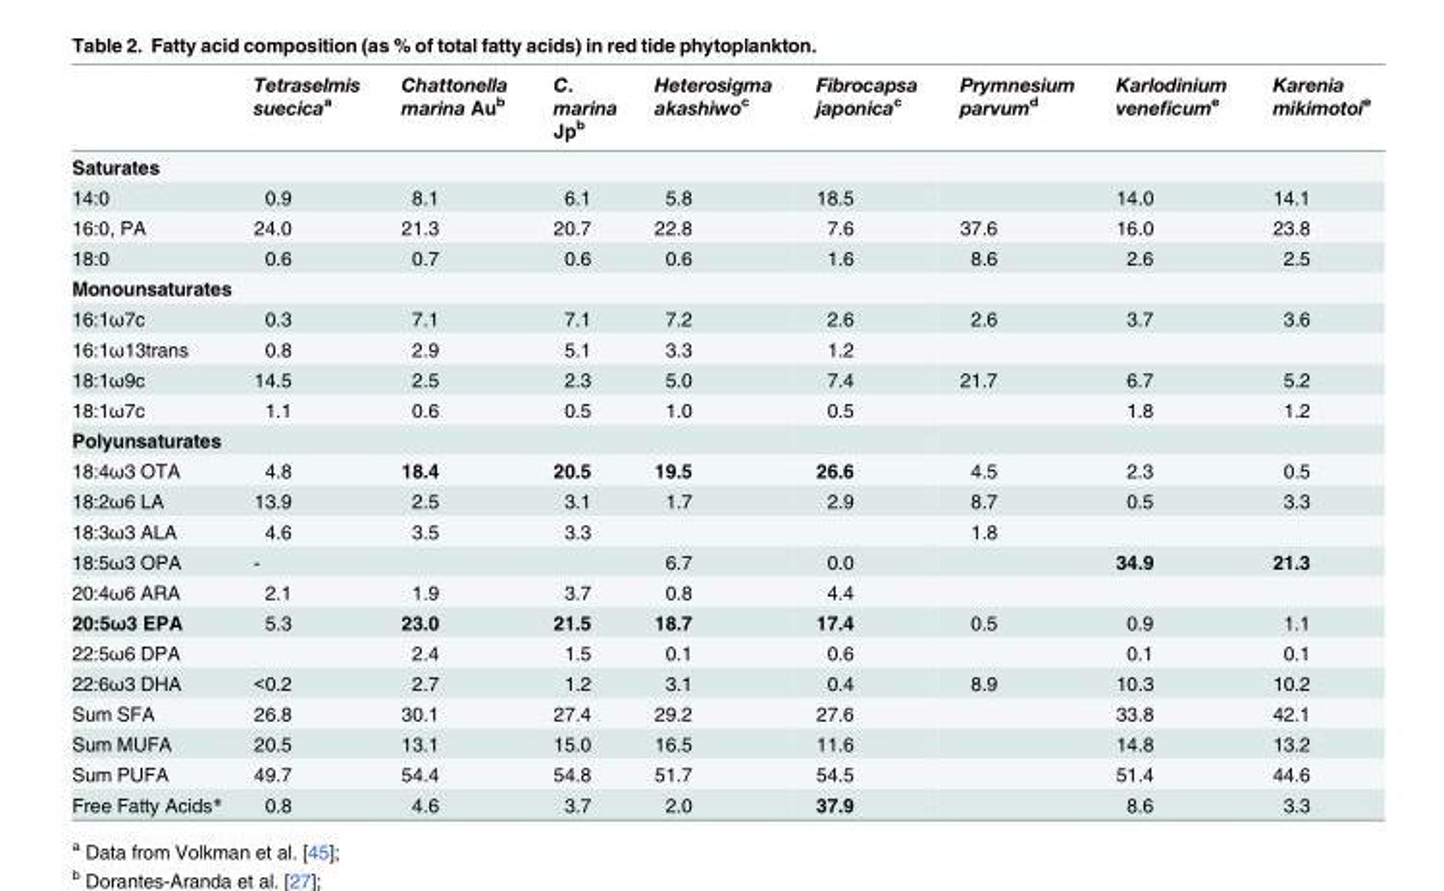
<table><thead><tr><td></td><td>Tetraselmis suecica<sup>a</sup></td><td>Chattonella marina Au<sup>b</sup></td><td>C. marina Jp<sup>b</sup></td><td>Heterosigma akashiwo<sup>c</sup></td><td>Fibrocapsa japonica<sup>c</sup></td><td>Prymnesium parvum<sup>d</sup></td><td>Karlodinium veneficum<sup>e</sup></td><td>Karenia mikimotoi<sup>e</sup></td></tr></thead><tbody><tr><td colspan="9">Saturates</td></tr><tr><td>14:0</td><td>0.9</td><td>8.1</td><td>6.1</td><td>5.8</td><td>18.5</td><td></td><td>14.0</td><td>14.1</td></tr><tr><td>16:0, PA</td><td>24.0</td><td>21.3</td><td>20.7</td><td>22.8</td><td>7.6</td><td>37.6</td><td>16.0</td><td>23.8</td></tr><tr><td>18:0</td><td>0.6</td><td>0.7</td><td>0.6</td><td>0.6</td><td>1.6</td><td>8.6</td><td>2.6</td><td>2.5</td></tr><tr><td colspan="9">Monounsaturates</td></tr><tr><td>16:1ω7c</td><td>0.3</td><td>7.1</td><td>7.1</td><td>7.2</td><td>2.6</td><td>2.6</td><td>3.7</td><td>3.6</td></tr><tr><td>16:1ω13trans</td><td>0.8</td><td>2.9</td><td>5.1</td><td>3.3</td><td>1.2</td><td></td><td></td><td></td></tr><tr><td>18:1ω9c</td><td>14.5</td><td>2.5</td><td>2.3</td><td>5.0</td><td>7.4</td><td>21.7</td><td>6.7</td><td>5.2</td></tr><tr><td>18:1ω7c</td><td>1.1</td><td>0.6</td><td>0.5</td><td>1.0</td><td>0.5</td><td></td><td>1.8</td><td>1.2</td></tr><tr><td colspan="9">Polyunsaturates</td></tr><tr><td>18:4ω3 OTA</td><td>4.8</td><td>18.4</td><td>20.5</td><td>19.5</td><td>26.6</td><td>4.5</td><td>2.3</td><td>0.5</td></tr><tr><td>18:2ω6 LA</td><td>13.9</td><td>2.5</td><td>3.1</td><td>1.7</td><td>2.9</td><td>8.7</td><td>0.5</td><td>3.3</td></tr><tr><td>18:3ω3 ALA</td><td>4.6</td><td>3.5</td><td>3.3</td><td></td><td></td><td>1.8</td><td></td><td></td></tr><tr><td>18:5ω3 OPA</td><td>-</td><td></td><td></td><td>6.7</td><td>0.0</td><td></td><td>34.9</td><td>21.3</td></tr><tr><td>20:4ω6 ARA</td><td>2.1</td><td>1.9</td><td>3.7</td><td>0.8</td><td>4.4</td><td></td><td></td><td></td></tr><tr><td>20:5ω3 EPA</td><td>5.3</td><td>23.0</td><td>21.5</td><td>18.7</td><td>17.4</td><td>0.5</td><td>0.9</td><td>1.1</td></tr><tr><td>22:5ω6 DPA</td><td></td><td>2.4</td><td>1.5</td><td>0.1</td><td>0.6</td><td></td><td>0.1</td><td>0.1</td></tr><tr><td>22:6ω3 DHA</td><td>&lt;0.2</td><td>2.7</td><td>1.2</td><td>3.1</td><td>0.4</td><td>8.9</td><td>10.3</td><td>10.2</td></tr><tr><td>Sum SFA</td><td>26.8</td><td>30.1</td><td>27.4</td><td>29.2</td><td>27.6</td><td></td><td>33.8</td><td>42.1</td></tr><tr><td>Sum MUFA</td><td>20.5</td><td>13.1</td><td>15.0</td><td>16.5</td><td>11.6</td><td></td><td>14.8</td><td>13.2</td></tr><tr><td>Sum PUFA</td><td>49.7</td><td>54.4</td><td>54.8</td><td>51.7</td><td>54.5</td><td></td><td>51.4</td><td>44.6</td></tr><tr><td>Free Fatty Acids*</td><td>0.8</td><td>4.6</td><td>3.7</td><td>2.0</td><td>37.9</td><td></td><td>8.6</td><td>3.3</td></tr></tbody></table>